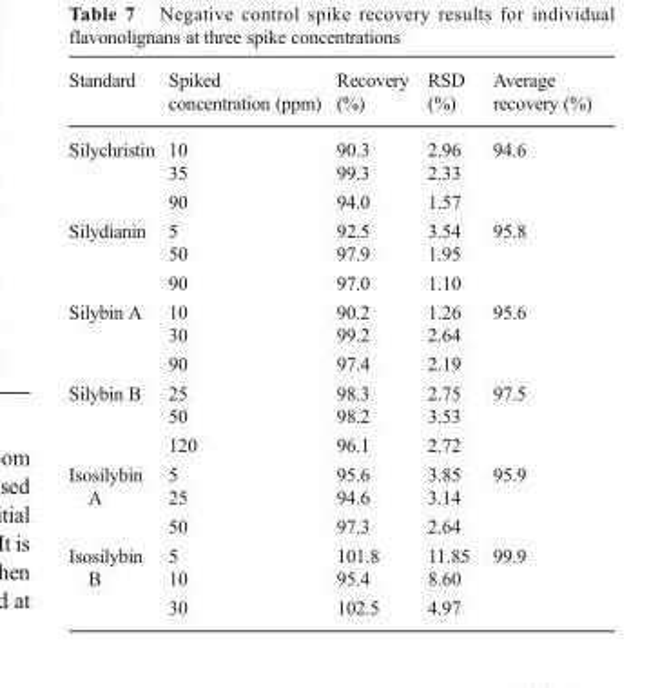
<table><thead><tr><td>Standard</td><td>Spiked concentration (ppm)</td><td>Recovery (%)</td><td>RSD (%)</td><td>Average recovery (%)</td></tr></thead><tbody><tr><td rowspan="3">Silychristin</td><td>10</td><td>90.3</td><td>2.96</td><td rowspan="3">94.6</td></tr><tr><td>35</td><td>99.3</td><td>2.33</td></tr><tr><td>90</td><td>94.0</td><td>1.57</td></tr><tr><td rowspan="3">Silydianin</td><td>5</td><td>92.5</td><td>3.54</td><td rowspan="3">95.8</td></tr><tr><td>50</td><td>97.9</td><td>1.95</td></tr><tr><td>90</td><td>97.0</td><td>1.10</td></tr><tr><td rowspan="3">Silybin A</td><td>10</td><td>90.2</td><td>1.26</td><td rowspan="3">95.6</td></tr><tr><td>30</td><td>99.2</td><td>2.64</td></tr><tr><td>90</td><td>97.4</td><td>2.19</td></tr><tr><td rowspan="3">Silybin B</td><td>25</td><td>98.3</td><td>2.75</td><td rowspan="3">97.5</td></tr><tr><td>50</td><td>98.2</td><td>3.53</td></tr><tr><td>120</td><td>96.1</td><td>2.72</td></tr><tr><td rowspan="3">Isosilybin A</td><td>5</td><td>95.6</td><td>3.85</td><td rowspan="3">95.9</td></tr><tr><td>25</td><td>94.6</td><td>3.14</td></tr><tr><td>50</td><td>97.3</td><td>2.64</td></tr><tr><td rowspan="3">Isosilybin B</td><td>5</td><td>101.8</td><td>11.85</td><td rowspan="3">99.9</td></tr><tr><td>10</td><td>95.4</td><td>8.60</td></tr><tr><td>30</td><td>102.5</td><td>4.97</td></tr></tbody></table>